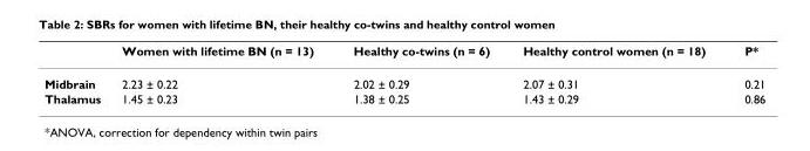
<table><thead><tr><td></td><td>Women with lifetime BN (n = 13)</td><td>Healthy co-twins (n = 6)</td><td>Healthy control women (n = 18)</td><td>P*</td></tr></thead><tbody><tr><td>Midbrain</td><td>2.23 ± 0.22</td><td>2.02 ± 0.29</td><td>2.07 ± 0.31</td><td>0.21</td></tr><tr><td>Thalamus</td><td>1.45 ± 0.23</td><td>1.38 ± 0.25</td><td>1.43 ± 0.29</td><td>0.86</td></tr></tbody></table>